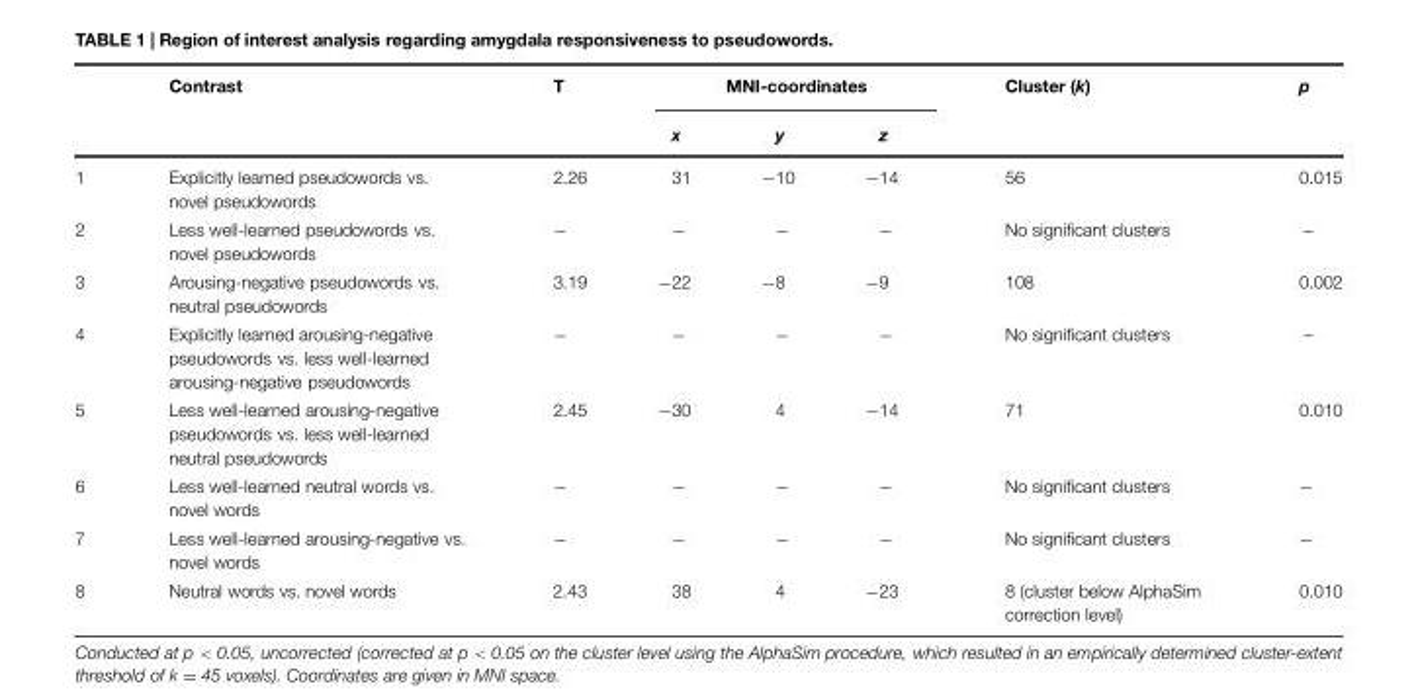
<table><thead><tr><td rowspan="2"></td><td rowspan="2">Contrast</td><td rowspan="2">T</td><td colspan="3">MNI-coordinates</td><td rowspan="2">Cluster (k)</td><td rowspan="2">p</td></tr><tr><td>x</td><td>y</td><td>z</td></tr></thead><tbody><tr><td>1</td><td>Explicitly learned pseudowords vs. novel pseudowords</td><td>2.26</td><td>31</td><td>−10</td><td>−14</td><td>56</td><td>0.015</td></tr><tr><td>2</td><td>Less well-learned pseudowords vs. novel pseudowords</td><td>−</td><td>−</td><td>−</td><td>−</td><td>No significant clusters</td><td>–</td></tr><tr><td>3</td><td>Arousing-negative pseudowords vs. neutral pseudowords</td><td>3.19</td><td>−22</td><td>−8</td><td>−9</td><td>108</td><td>0.002</td></tr><tr><td>4</td><td>Explicitly learned arousing-negative pseudowords vs. less well-learned arousing-negative pseudowords</td><td>−</td><td>−</td><td>−</td><td>−</td><td>No significant clusters</td><td>–</td></tr><tr><td>5</td><td>Less well-learned arousing-negative pseudowords vs. less well-learned neutral pseudowords</td><td>2.45</td><td>−30</td><td>4</td><td>−14</td><td>71</td><td>0.010</td></tr><tr><td>6</td><td>Less well-learned neutral words vs. novel words</td><td>−</td><td>−</td><td>−</td><td>−</td><td>No significant clusters</td><td>−</td></tr><tr><td>7</td><td>Less well-learned arousing-negative vs. novel words</td><td>−</td><td>−</td><td>−</td><td>−</td><td>No significant clusters</td><td>−</td></tr><tr><td>8</td><td>Neutral words vs. novel words</td><td>2.43</td><td>38</td><td>4</td><td>−23</td><td>8 (cluster below AlphaSim correction level)</td><td>0.010</td></tr></tbody></table>